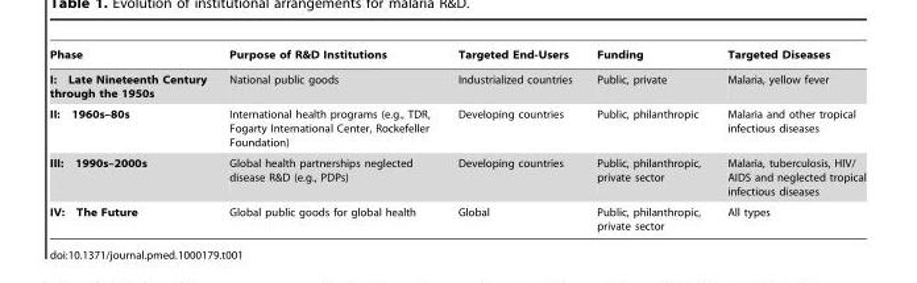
<table><thead><tr><td>Phase</td><td>Purpose of R&amp;D Institutions</td><td>Targeted End-Users</td><td>Funding</td><td>Targeted Diseases</td></tr></thead><tbody><tr><td>I: Late Nineteenth Century through the 1950s</td><td>National public goods</td><td>Industrialized countries</td><td>Public, private</td><td>Malaria, yellow fever</td></tr><tr><td>II: 1960s–80s</td><td>International health programs (e.g., TDR, Fogarty International Center, Rockefeller Foundation)</td><td>Developing countries</td><td>Public, philanthropic</td><td>Malaria and other tropical infectious diseases</td></tr><tr><td>III: 1990s–2000s</td><td>Global health partnerships neglected disease R&amp;D (e.g., PDPs)</td><td>Developing countries</td><td>Public, philanthropic, private sector</td><td>Malaria, tuberculosis, HIV/ AIDS and neglected tropical infectious diseases</td></tr><tr><td>IV: The Future</td><td>Global public goods for global health</td><td>Global</td><td>Public, philanthropic, private sector</td><td>All types</td></tr></tbody></table>